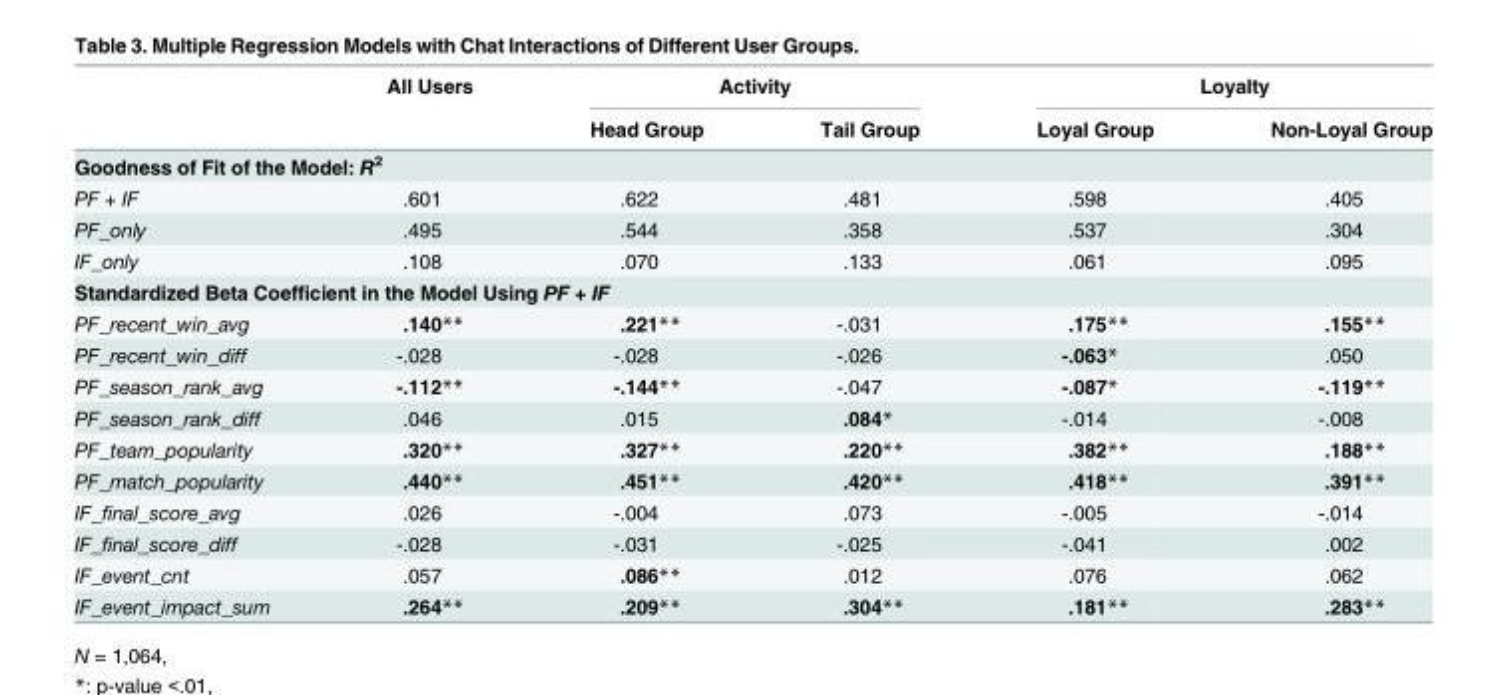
<table><thead><tr><td rowspan="2"></td><td rowspan="2">All Users</td><td colspan="2">Activity</td><td colspan="2">Loyalty</td></tr><tr><td>Head Group</td><td>Tail Group</td><td>Loyal Group</td><td>Non-Loyal Group</td></tr></thead><tbody><tr><td colspan="6">Goodness of Fit of the Model: R<sup>2</sup></td></tr><tr><td>PF + IF</td><td>.601</td><td>.622</td><td>.481</td><td>.598</td><td>.405</td></tr><tr><td>PF_only</td><td>.495</td><td>.544</td><td>.358</td><td>.537</td><td>.304</td></tr><tr><td>IF_only</td><td>.108</td><td>.070</td><td>.133</td><td>.061</td><td>.095</td></tr><tr><td colspan="6">Standardized Beta Coefficient in the Model Using PF + IF</td></tr><tr><td>PF_recent_win_avg</td><td>.140**</td><td>.221**</td><td>-.031</td><td>.175**</td><td>.155**</td></tr><tr><td>PF_recent_win_diff</td><td>-.028</td><td>-.028</td><td>-.026</td><td>-.063*</td><td>.050</td></tr><tr><td>PF_season_rank_avg</td><td>-.112**</td><td>-.144**</td><td>-.047</td><td>-.087*</td><td>-.119**</td></tr><tr><td>PF_season_rank_diff</td><td>.046</td><td>.015</td><td>.084*</td><td>-.014</td><td>-.008</td></tr><tr><td>PF_team_popularity</td><td>.320**</td><td>.327**</td><td>.220**</td><td>.382**</td><td>.188**</td></tr><tr><td>PF_match_popularity</td><td>.440**</td><td>.451**</td><td>.420**</td><td>.418**</td><td>.391**</td></tr><tr><td>IF_final_score_avg</td><td>.026</td><td>-.004</td><td>.073</td><td>-.005</td><td>-.014</td></tr><tr><td>IF_final_score_diff</td><td>-.028</td><td>-.031</td><td>-.025</td><td>-.041</td><td>.002</td></tr><tr><td>IF_event_cnt</td><td>.057</td><td>.086**</td><td>.012</td><td>.076</td><td>.062</td></tr><tr><td>IF_event_impact_sum</td><td>.264**</td><td>.209**</td><td>.304**</td><td>.181**</td><td>.283**</td></tr></tbody></table>